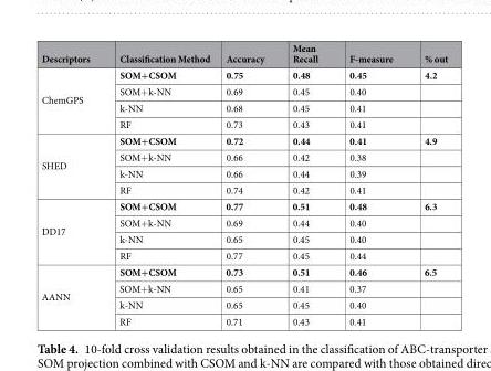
<table><thead><tr><td>Descriptors</td><td>Classification Method</td><td>Accuracy</td><td>Mean Recall</td><td>F-measure</td><td>% out</td></tr></thead><tbody><tr><td rowspan="4">ChemGPS</td><td>SOM+CSOM</td><td>0.75</td><td>0.48</td><td>0.45</td><td>4.2</td></tr><tr><td>SOM+k-NN</td><td>0.69</td><td>0.45</td><td>0.40</td><td></td></tr><tr><td>k-NN</td><td>0.68</td><td>0.45</td><td>0.41</td><td></td></tr><tr><td>RF</td><td>0.73</td><td>0.43</td><td>0.41</td><td></td></tr><tr><td rowspan="4">SHED</td><td>SOM+CSOM</td><td>0.72</td><td>0.44</td><td>0.41</td><td>4.9</td></tr><tr><td>SOM+k-NN</td><td>0.66</td><td>0.42</td><td>0.38</td><td></td></tr><tr><td>k-NN</td><td>0.66</td><td>0.44</td><td>0.39</td><td></td></tr><tr><td>RF</td><td>0.74</td><td>0.42</td><td>0.41</td><td></td></tr><tr><td rowspan="4">DD17</td><td>SOM+CSOM</td><td>0.77</td><td>0.51</td><td>0.48</td><td>6.3</td></tr><tr><td>SOM+k-NN</td><td>0.69</td><td>0.44</td><td>0.40</td><td></td></tr><tr><td>k-NN</td><td>0.65</td><td>0.45</td><td>0.40</td><td></td></tr><tr><td>RF</td><td>0.77</td><td>0.45</td><td>0.44</td><td></td></tr><tr><td rowspan="4">AANN</td><td>SOM+CSOM</td><td>0.73</td><td>0.51</td><td>0.46</td><td>6.5</td></tr><tr><td>SOM+k-NN</td><td>0.65</td><td>0.41</td><td>0.37</td><td></td></tr><tr><td>k-NN</td><td>0.65</td><td>0.45</td><td>0.40</td><td></td></tr><tr><td>RF</td><td>0.71</td><td>0.43</td><td>0.41</td><td></td></tr></tbody></table>